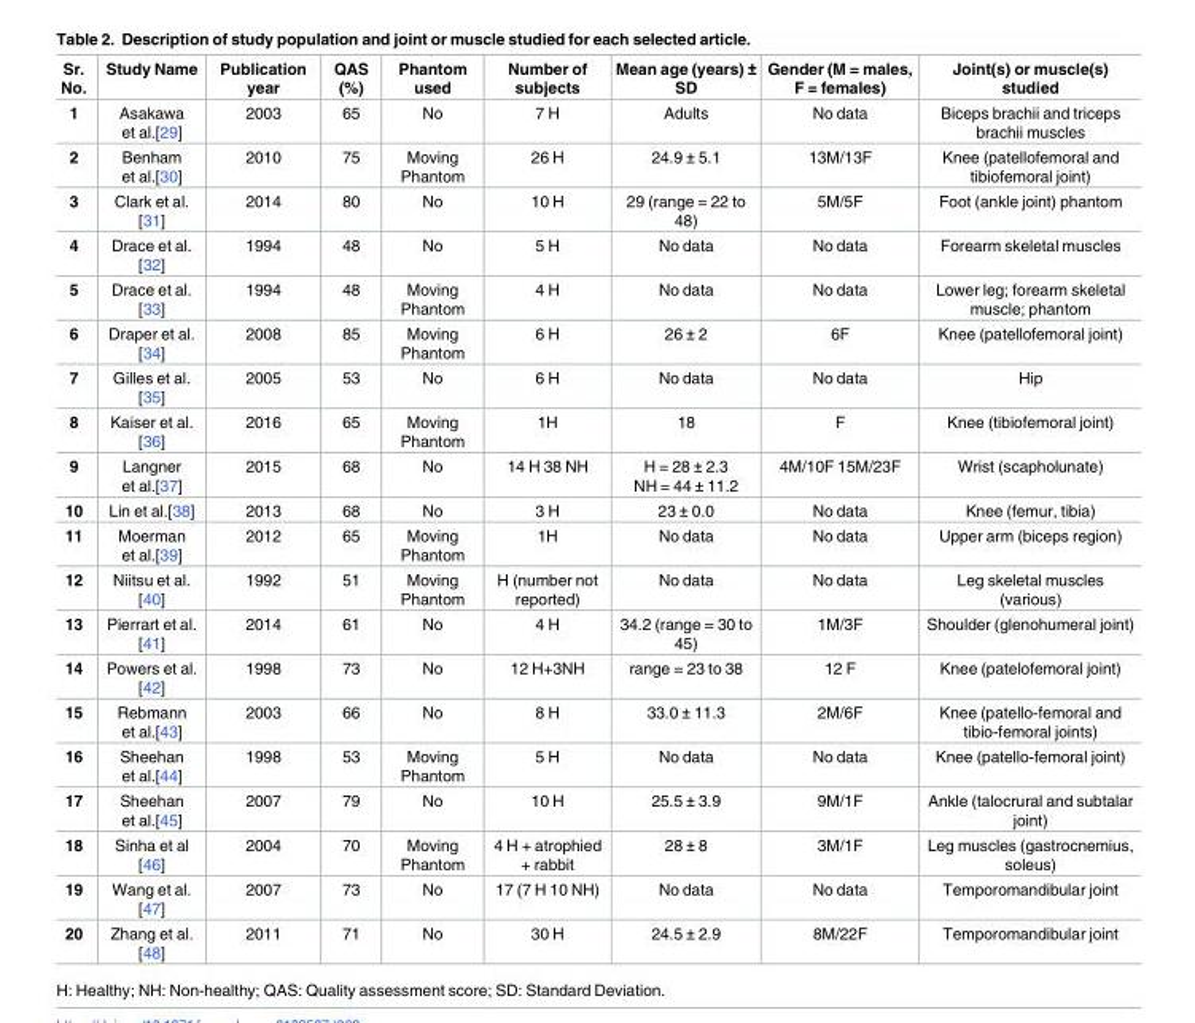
<table><thead><tr><td>Sr. No.</td><td>Study Name</td><td>Publication year</td><td>QAS (%)</td><td>Phantom used</td><td>Number of subjects</td><td>Mean age (years) ± SD</td><td>Gender (M = males, F = females)</td><td>Joint(s) or muscle(s) studied</td></tr></thead><tbody><tr><td>1</td><td>Asakawa et al.[29]</td><td>2003</td><td>65</td><td>No</td><td>7 H</td><td>Adults</td><td>No data</td><td>Biceps brachii and triceps brachii muscles</td></tr><tr><td>2</td><td>Benham et al.[30]</td><td>2010</td><td>75</td><td>Moving Phantom</td><td>26 H</td><td>24.9 ± 5.1</td><td>13M/13F</td><td>Knee (patellofemoral and tibiofemoral joint)</td></tr><tr><td>3</td><td>Clark et al. [31]</td><td>2014</td><td>80</td><td>No</td><td>10 H</td><td>29 (range = 22 to 48)</td><td>5M/5F</td><td>Foot (ankle joint) phantom</td></tr><tr><td>4</td><td>Drace et al. [32]</td><td>1994</td><td>48</td><td>No</td><td>5 H</td><td>No data</td><td>No data</td><td>Forearm skeletal muscles</td></tr><tr><td>5</td><td>Drace et al. [33]</td><td>1994</td><td>48</td><td>Moving Phantom</td><td>4 H</td><td>No data</td><td>No data</td><td>Lower leg; forearm skeletal muscle; phantom</td></tr><tr><td>6</td><td>Draper et al. [34]</td><td>2008</td><td>85</td><td>Moving Phantom</td><td>6 H</td><td>26 ± 2</td><td>6F</td><td>Knee (patellofemoral joint)</td></tr><tr><td>7</td><td>Gilles et al. [35]</td><td>2005</td><td>53</td><td>No</td><td>6 H</td><td>No data</td><td>No data</td><td>Hip</td></tr><tr><td>8</td><td>Kaiser et al. [36]</td><td>2016</td><td>65</td><td>Moving Phantom</td><td>1H</td><td>18</td><td>F</td><td>Knee (tibiofemoral joint)</td></tr><tr><td>9</td><td>Langner et al.[37]</td><td>2015</td><td>68</td><td>No</td><td>14 H 38 NH</td><td>H = 28 ± 2.3 NH = 44 ± 11.2</td><td>4M/10F 15M/23F</td><td>Wrist (scapholunate)</td></tr><tr><td>10</td><td>Lin et al.[38]</td><td>2013</td><td>68</td><td>No</td><td>3 H</td><td>23 ± 0.0</td><td>No data</td><td>Knee (femur, tibia)</td></tr><tr><td>11</td><td>Moerman et al.[39]</td><td>2012</td><td>65</td><td>Moving Phantom</td><td>1H</td><td>No data</td><td>No data</td><td>Upper arm (biceps region)</td></tr><tr><td>12</td><td>Niitsu et al. [40]</td><td>1992</td><td>51</td><td>Moving Phantom</td><td>H (number not reported)</td><td>No data</td><td>No data</td><td>Leg skeletal muscles (various)</td></tr><tr><td>13</td><td>Pierrart et al. [41]</td><td>2014</td><td>61</td><td>No</td><td>4 H</td><td>34.2 (range = 30 to 45)</td><td>1M/3F</td><td>Shoulder (glenohumeral joint)</td></tr><tr><td>14</td><td>Powers et al. [42]</td><td>1998</td><td>73</td><td>No</td><td>12 H+3NH</td><td>range = 23 to 38</td><td>12 F</td><td>Knee (patelofemoral joint)</td></tr><tr><td>15</td><td>Rebmann et al.[43]</td><td>2003</td><td>66</td><td>No</td><td>8 H</td><td>33.0 ± 11.3</td><td>2M/6F</td><td>Knee (patello-femoral and tibio-femoral joints)</td></tr><tr><td>16</td><td>Sheehan et al.[44]</td><td>1998</td><td>53</td><td>Moving Phantom</td><td>5 H</td><td>No data</td><td>No data</td><td>Knee (patello-femoral joint)</td></tr><tr><td>17</td><td>Sheehan et al.[45]</td><td>2007</td><td>79</td><td>No</td><td>10 H</td><td>25.5 ± 3.9</td><td>9M/1F</td><td>Ankle (talocrural and subtalar joint)</td></tr><tr><td>18</td><td>Sinha et al [46]</td><td>2004</td><td>70</td><td>Moving Phantom</td><td>4 H + atrophied + rabbit</td><td>28 ± 8</td><td>3M/1F</td><td>Leg muscles (gastrocnemius, soleus)</td></tr><tr><td>19</td><td>Wang et al. [47]</td><td>2007</td><td>73</td><td>No</td><td>17 (7 H 10 NH)</td><td>No data</td><td>No data</td><td>Temporomandibular joint</td></tr><tr><td>20</td><td>Zhang et al. [48]</td><td>2011</td><td>71</td><td>No</td><td>30 H</td><td>24.5 ± 2.9</td><td>8M/22F</td><td>Temporomandibular joint</td></tr></tbody></table>